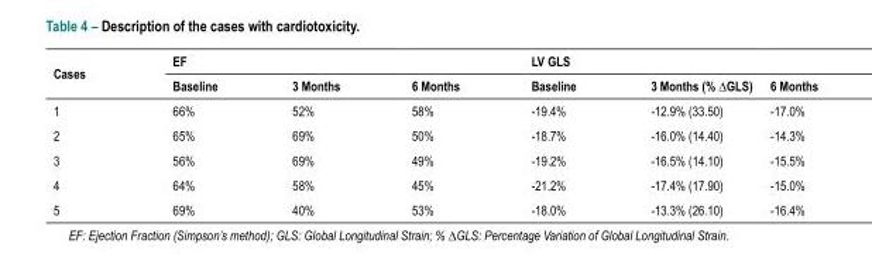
<table><thead><tr><td rowspan="2">Cases</td><td colspan="3">EF</td><td colspan="3">LV GLS</td></tr><tr><td>Baseline</td><td>3 Months</td><td>6 Months</td><td>Baseline</td><td>3 Months (% ∆GLS)</td><td>6 Months</td></tr></thead><tbody><tr><td>1</td><td>66%</td><td>52%</td><td>58%</td><td>-19.4%</td><td>-12.9% (33.50)</td><td>-17.0%</td></tr><tr><td>2</td><td>65%</td><td>69%</td><td>50%</td><td>-18.7%</td><td>-16.0% (14.40)</td><td>-14.3%</td></tr><tr><td>3</td><td>56%</td><td>69%</td><td>49%</td><td>-19.2%</td><td>-16.5% (14.10)</td><td>-15.5%</td></tr><tr><td>4</td><td>64%</td><td>58%</td><td>45%</td><td>-21.2%</td><td>-17.4% (17.90)</td><td>-15.0%</td></tr><tr><td>5</td><td>69%</td><td>40%</td><td>53%</td><td>-18.0%</td><td>-13.3% (26.10)</td><td>-16.4%</td></tr></tbody></table>